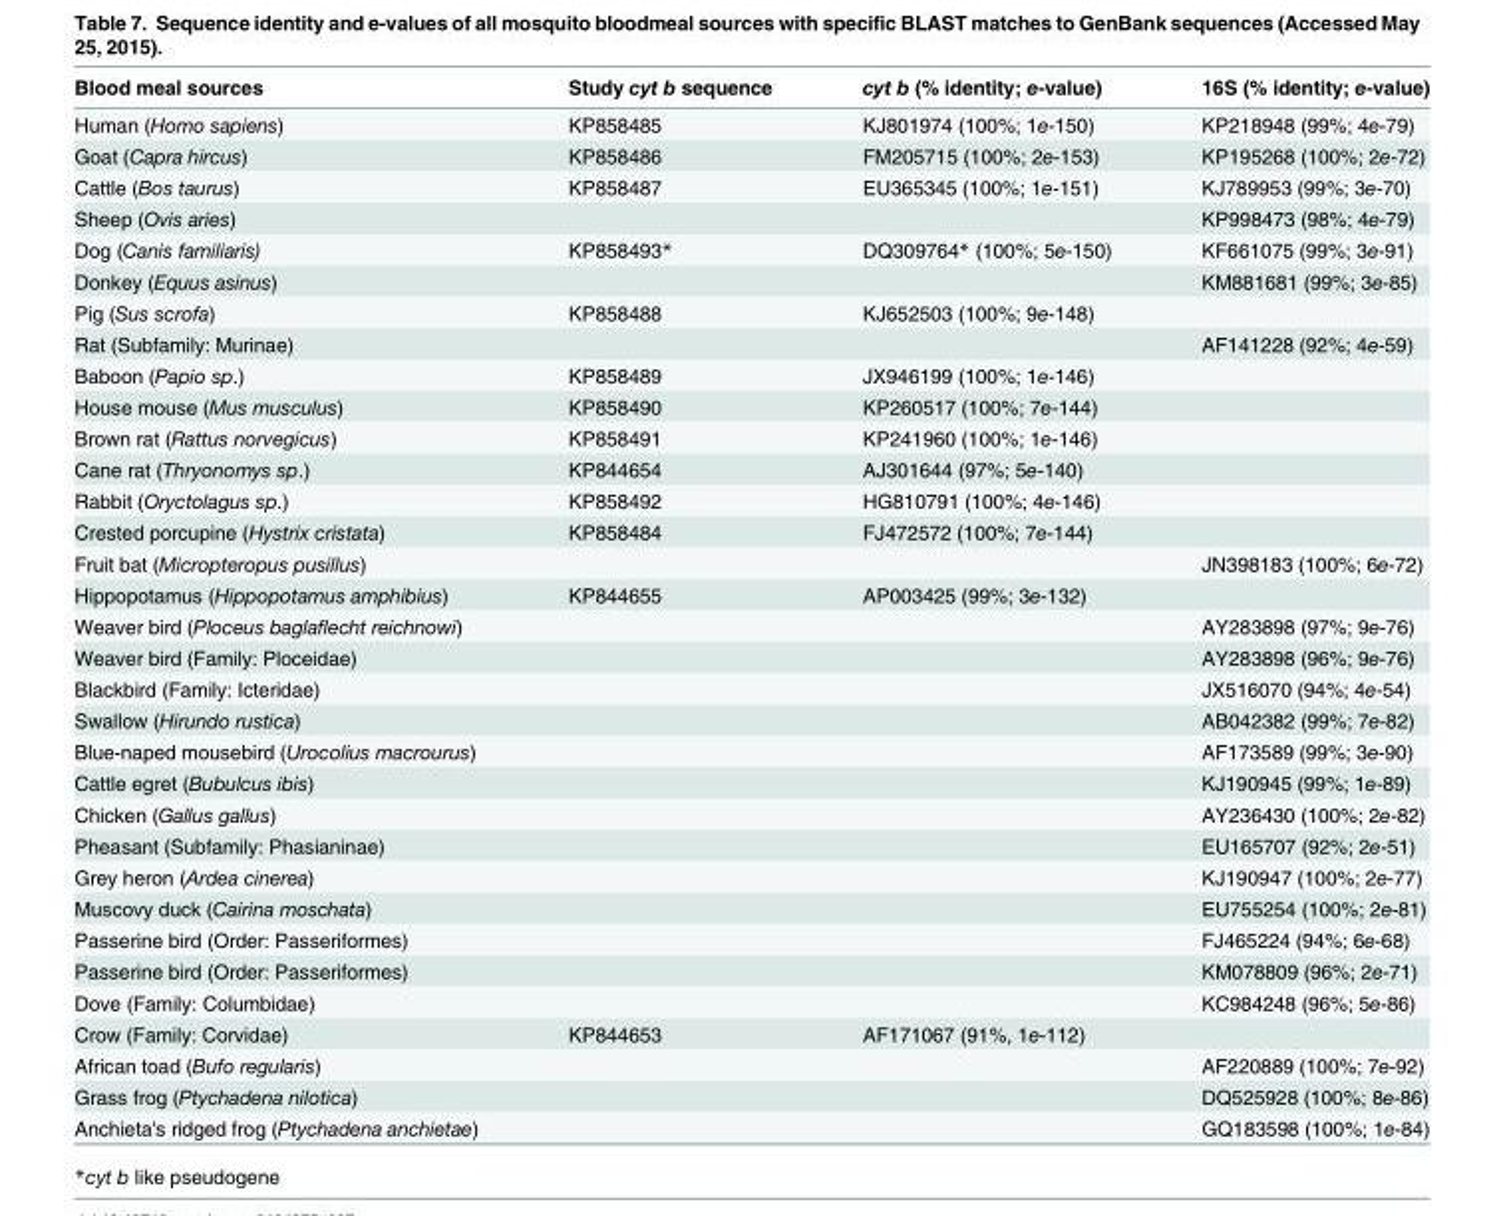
<table><thead><tr><td>Blood meal sources</td><td>Study cyt b sequence</td><td>cyt b (% identity; e-value)</td><td>16S (% identity; e-value)</td></tr></thead><tbody><tr><td>Human (Homo sapiens)</td><td>KP858485</td><td>KJ801974 (100%; 1e-150)</td><td>KP218948 (99%; 4e-79)</td></tr><tr><td>Goat (Capra hircus)</td><td>KP858486</td><td>FM205715 (100%; 2e-153)</td><td>KP195268 (100%; 2e-72)</td></tr><tr><td>Cattle (Bos taurus)</td><td>KP858487</td><td>EU365345 (100%; 1e-151)</td><td>KJ789953 (99%; 3e-70)</td></tr><tr><td>Sheep (Ovis aries)</td><td></td><td></td><td>KP998473 (98%; 4e-79)</td></tr><tr><td>Dog (Canis familiaris)</td><td>KP858493*</td><td>DQ309764* (100%; 5e-150)</td><td>KF661075 (99%; 3e-91)</td></tr><tr><td>Donkey (Equus asinus)</td><td></td><td></td><td>KM881681 (99%; 3e-85)</td></tr><tr><td>Pig (Sus scrofa)</td><td>KP858488</td><td>KJ652503 (100%; 9e-148)</td><td></td></tr><tr><td>Rat (Subfamily: Murinae)</td><td></td><td></td><td>AF141228 (92%; 4e-59)</td></tr><tr><td>Baboon (Papio sp.)</td><td>KP858489</td><td>JX946199 (100%; 1e-146)</td><td></td></tr><tr><td>House mouse (Mus musculus)</td><td>KP858490</td><td>KP260517 (100%; 7e-144)</td><td></td></tr><tr><td>Brown rat (Rattus norvegicus)</td><td>KP858491</td><td>KP241960 (100%; 1e-146)</td><td></td></tr><tr><td>Cane rat (Thryonomys sp.)</td><td>KP844654</td><td>AJ301644 (97%; 5e-140)</td><td></td></tr><tr><td>Rabbit (Oryctolagus sp.)</td><td>KP858492</td><td>HG810791 (100%; 4e-146)</td><td></td></tr><tr><td>Crested porcupine (Hystrix cristata)</td><td>KP858484</td><td>FJ472572 (100%; 7e-144)</td><td></td></tr><tr><td>Fruit bat (Micropteropus pusillus)</td><td></td><td></td><td>JN398183 (100%; 6e-72)</td></tr><tr><td>Hippopotamus (Hippopotamus amphibius)</td><td>KP844655</td><td>AP003425 (99%; 3e-132)</td><td></td></tr><tr><td>Weaver bird (Ploceus baglaflecht reichnowi)</td><td></td><td></td><td>AY283898 (97%; 9e-76)</td></tr><tr><td>Weaver bird (Family: Ploceidae)</td><td></td><td></td><td>AY283898 (96%; 9e-76)</td></tr><tr><td>Blackbird (Family: Icteridae)</td><td></td><td></td><td>JX516070 (94%; 4e-54)</td></tr><tr><td>Swallow (Hirundo rustica)</td><td></td><td></td><td>AB042382 (99%; 7e-82)</td></tr><tr><td>Blue-naped mousebird (Urocolius macrourus)</td><td></td><td></td><td>AF173589 (99%; 3e-90)</td></tr><tr><td>Cattle egret (Bubulcus ibis)</td><td></td><td></td><td>KJ190945 (99%; 1e-89)</td></tr><tr><td>Chicken (Gallus gallus)</td><td></td><td></td><td>AY236430 (100%; 2e-82)</td></tr><tr><td>Pheasant (Subfamily: Phasianinae)</td><td></td><td></td><td>EU165707 (92%; 2e-51)</td></tr><tr><td>Grey heron (Ardea cinerea)</td><td></td><td></td><td>KJ190947 (100%; 2e-77)</td></tr><tr><td>Muscovy duck (Cairina moschata)</td><td></td><td></td><td>EU755254 (100%; 2e-81)</td></tr><tr><td>Passerine bird (Order: Passeriformes)</td><td></td><td></td><td>FJ465224 (94%; 6e-68)</td></tr><tr><td>Passerine bird (Order: Passeriformes)</td><td></td><td></td><td>KM078809 (96%; 2e-71)</td></tr><tr><td>Dove (Family: Columbidae)</td><td></td><td></td><td>KC984248 (96%; 5e-86)</td></tr><tr><td>Crow (Family: Corvidae)</td><td>KP844653</td><td>AF171067 (91%, 1e-112)</td><td></td></tr><tr><td>African toad (Bufo regularis)</td><td></td><td></td><td>AF220889 (100%; 7e-92)</td></tr><tr><td>Grass frog (Ptychadena nilotica)</td><td></td><td></td><td>DQ525928 (100%; 8e-86)</td></tr><tr><td>Anchieta&#x27;s ridged frog (Ptychadena anchietae)</td><td></td><td></td><td>GQ183598 (100%; 1e-84)</td></tr></tbody></table>